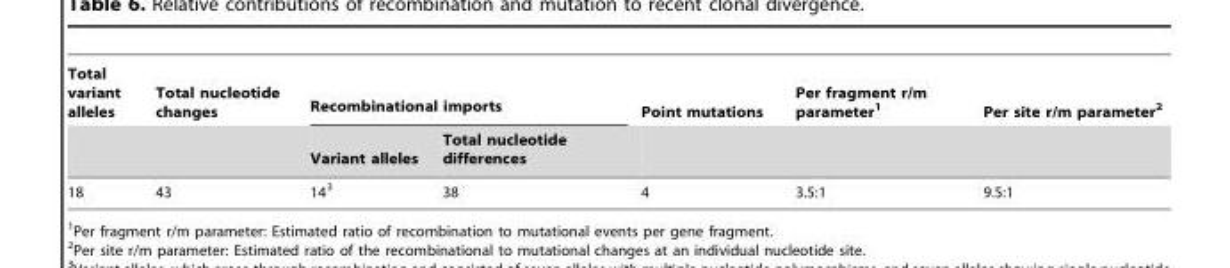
<table><thead><tr><td rowspan="2">Total variant alleles</td><td rowspan="2">Total nucleotide changes</td><td colspan="2">Recombinational imports</td><td rowspan="2">Point mutations</td><td rowspan="2">Per fragment r/m parameter<sup>1</sup></td><td rowspan="2">Per site r/m parameter<sup>2</sup></td></tr><tr><td>Variant alleles</td><td>Total nucleotide differences</td></tr></thead><tbody><tr><td>18</td><td>43</td><td>14<sup>3</sup></td><td>38</td><td>4</td><td>3.5:1</td><td>9.5:1</td></tr></tbody></table>